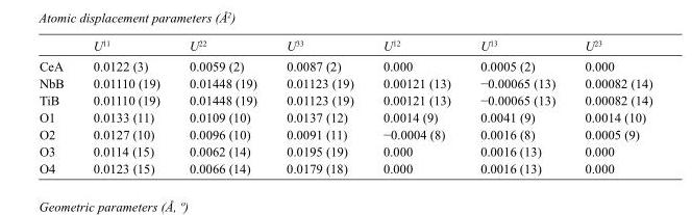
<table><thead><tr><td></td><td>U<sup>11</sup></td><td>U<sup>22</sup></td><td>U<sup>33</sup></td><td>U<sup>12</sup></td><td>U<sup>13</sup></td><td>U<sup>23</sup></td></tr></thead><tbody><tr><td>CeA</td><td>0.0122 (3)</td><td>0.0059 (2)</td><td>0.0087 (2)</td><td>0.000</td><td>0.0005 (2)</td><td>0.000</td></tr><tr><td>NbB</td><td>0.01110 (19)</td><td>0.01448 (19)</td><td>0.01123 (19)</td><td>0.00121 (13)</td><td>−0.00065 (13)</td><td>0.00082 (14)</td></tr><tr><td>TiB</td><td>0.01110 (19)</td><td>0.01448 (19)</td><td>0.01123 (19)</td><td>0.00121 (13)</td><td>−0.00065 (13)</td><td>0.00082 (14)</td></tr><tr><td>O1</td><td>0.0133 (11)</td><td>0.0109 (10)</td><td>0.0137 (12)</td><td>0.0014 (9)</td><td>0.0041 (9)</td><td>0.0014 (10)</td></tr><tr><td>O2</td><td>0.0127 (10)</td><td>0.0096 (10)</td><td>0.0091 (11)</td><td>−0.0004 (8)</td><td>0.0016 (8)</td><td>0.0005 (9)</td></tr><tr><td>O3</td><td>0.0114 (15)</td><td>0.0062 (14)</td><td>0.0195 (19)</td><td>0.000</td><td>0.0016 (13)</td><td>0.000</td></tr><tr><td>O4</td><td>0.0123 (15)</td><td>0.0066 (14)</td><td>0.0179 (18)</td><td>0.000</td><td>0.0016 (13)</td><td>0.000</td></tr></tbody></table>